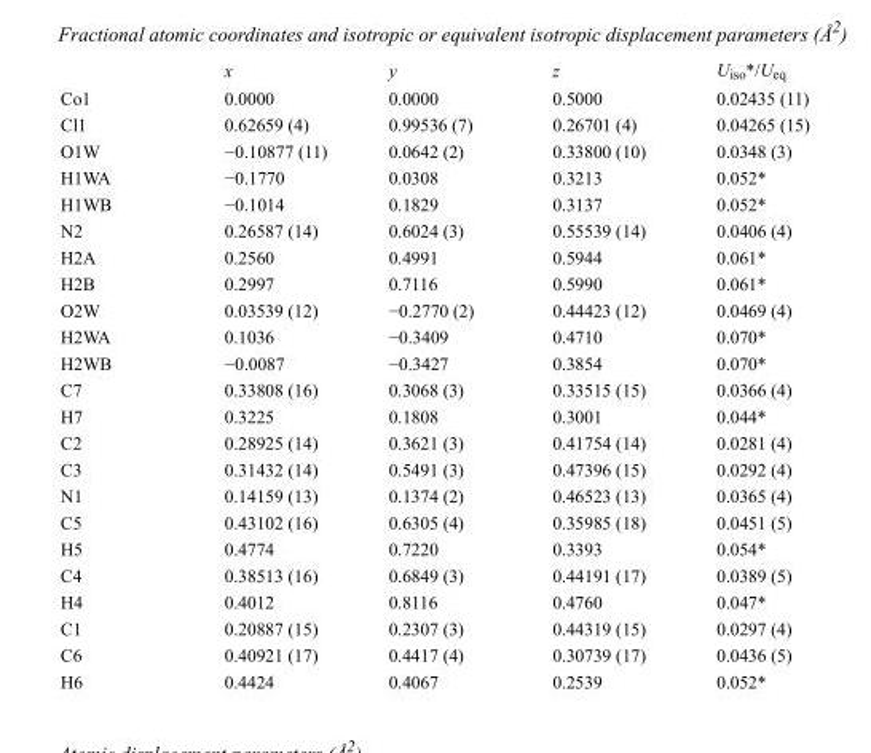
<table><thead><tr><td></td><td>x</td><td>y</td><td>z</td><td>U<sub>iso</sub>*/U<sub>eq</sub></td></tr></thead><tbody><tr><td>Co1</td><td>0.0000</td><td>0.0000</td><td>0.5000</td><td>0.02435 (11)</td></tr><tr><td>Cl1</td><td>0.62659 (4)</td><td>0.99536 (7)</td><td>0.26701 (4)</td><td>0.04265 (15)</td></tr><tr><td>O1W</td><td>−0.10877 (11)</td><td>0.0642 (2)</td><td>0.33800 (10)</td><td>0.0348 (3)</td></tr><tr><td>H1WA</td><td>−0.1770</td><td>0.0308</td><td>0.3213</td><td>0.052*</td></tr><tr><td>H1WB</td><td>−0.1014</td><td>0.1829</td><td>0.3137</td><td>0.052*</td></tr><tr><td>N2</td><td>0.26587 (14)</td><td>0.6024 (3)</td><td>0.55539 (14)</td><td>0.0406 (4)</td></tr><tr><td>H2A</td><td>0.2560</td><td>0.4991</td><td>0.5944</td><td>0.061*</td></tr><tr><td>H2B</td><td>0.2997</td><td>0.7116</td><td>0.5990</td><td>0.061*</td></tr><tr><td>O2W</td><td>0.03539 (12)</td><td>−0.2770 (2)</td><td>0.44423 (12)</td><td>0.0469 (4)</td></tr><tr><td>H2WA</td><td>0.1036</td><td>−0.3409</td><td>0.4710</td><td>0.070*</td></tr><tr><td>H2WB</td><td>−0.0087</td><td>−0.3427</td><td>0.3854</td><td>0.070*</td></tr><tr><td>C7</td><td>0.33808 (16)</td><td>0.3068 (3)</td><td>0.33515 (15)</td><td>0.0366 (4)</td></tr><tr><td>H7</td><td>0.3225</td><td>0.1808</td><td>0.3001</td><td>0.044*</td></tr><tr><td>C2</td><td>0.28925 (14)</td><td>0.3621 (3)</td><td>0.41754 (14)</td><td>0.0281 (4)</td></tr><tr><td>C3</td><td>0.31432 (14)</td><td>0.5491 (3)</td><td>0.47396 (15)</td><td>0.0292 (4)</td></tr><tr><td>N1</td><td>0.14159 (13)</td><td>0.1374 (2)</td><td>0.46523 (13)</td><td>0.0365 (4)</td></tr><tr><td>C5</td><td>0.43102 (16)</td><td>0.6305 (4)</td><td>0.35985 (18)</td><td>0.0451 (5)</td></tr><tr><td>H5</td><td>0.4774</td><td>0.7220</td><td>0.3393</td><td>0.054*</td></tr><tr><td>C4</td><td>0.38513 (16)</td><td>0.6849 (3)</td><td>0.44191 (17)</td><td>0.0389 (5)</td></tr><tr><td>H4</td><td>0.4012</td><td>0.8116</td><td>0.4760</td><td>0.047*</td></tr><tr><td>C1</td><td>0.20887 (15)</td><td>0.2307 (3)</td><td>0.44319 (15)</td><td>0.0297 (4)</td></tr><tr><td>C6</td><td>0.40921 (17)</td><td>0.4417 (4)</td><td>0.30739 (17)</td><td>0.0436 (5)</td></tr><tr><td>H6</td><td>0.4424</td><td>0.4067</td><td>0.2539</td><td>0.052*</td></tr></tbody></table>